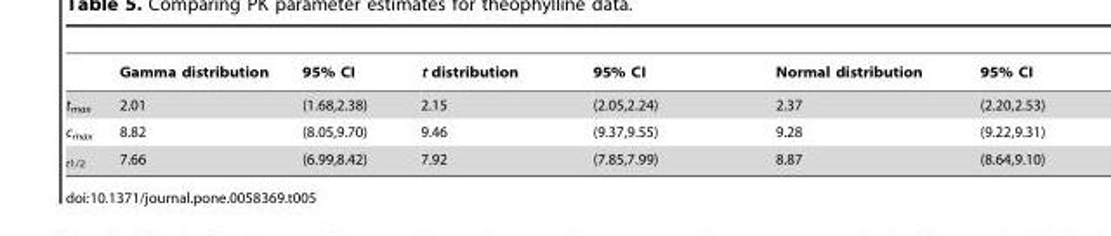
<table><thead><tr><td></td><td>Gamma distribution</td><td>95% CI</td><td>t distribution</td><td>95% CI</td><td>Normal distribution</td><td>95% CI</td></tr></thead><tbody><tr><td>t<sub>max</sub></td><td>2.01</td><td>(1.68,2.38)</td><td>2.15</td><td>(2.05,2.24)</td><td>2.37</td><td>(2.20,2.53)</td></tr><tr><td>c<sub>max</sub></td><td>8.82</td><td>(8.05,9.70)</td><td>9.46</td><td>(9.37,9.55)</td><td>9.28</td><td>(9.22,9.31)</td></tr><tr><td><sub>t1/2</sub></td><td>7.66</td><td>(6.99,8.42)</td><td>7.92</td><td>(7.85,7.99)</td><td>8.87</td><td>(8.64,9.10)</td></tr></tbody></table>